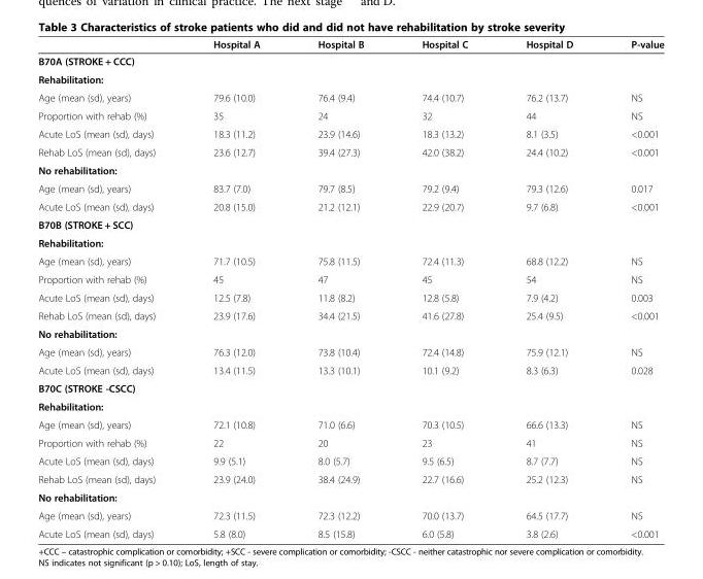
<table><thead><tr><td></td><td>Hospital A</td><td>Hospital B</td><td>Hospital C</td><td>Hospital D</td><td>P-value</td></tr></thead><tbody><tr><td colspan="6">B70A (STROKE + CCC)</td></tr><tr><td colspan="6">Rehabilitation:</td></tr><tr><td>Age (mean (sd), years)</td><td>79.6 (10.0)</td><td>76.4 (9.4)</td><td>74.4 (10.7)</td><td>76.2 (13.7)</td><td>NS</td></tr><tr><td>Proportion with rehab (%)</td><td>35</td><td>24</td><td>32</td><td>44</td><td>NS</td></tr><tr><td>Acute LoS (mean (sd), days)</td><td>18.3 (11.2)</td><td>23.9 (14.6)</td><td>18.3 (13.2)</td><td>8.1 (3.5)</td><td>&lt;0.001</td></tr><tr><td>Rehab LoS (mean (sd), days)</td><td>23.6 (12.7)</td><td>39.4 (27.3)</td><td>42.0 (38.2)</td><td>24.4 (10.2)</td><td>&lt;0.001</td></tr><tr><td colspan="6">No rehabilitation:</td></tr><tr><td>Age (mean (sd), years)</td><td>83.7 (7.0)</td><td>79.7 (8.5)</td><td>79.2 (9.4)</td><td>79.3 (12.6)</td><td>0.017</td></tr><tr><td>Acute LoS (mean (sd), days)</td><td>20.8 (15.0)</td><td>21.2 (12.1)</td><td>22.9 (20.7)</td><td>9.7 (6.8)</td><td>&lt;0.001</td></tr><tr><td colspan="6">B70B (STROKE + SCC)</td></tr><tr><td colspan="6">Rehabilitation:</td></tr><tr><td>Age (mean (sd), years)</td><td>71.7 (10.5)</td><td>75.8 (11.5)</td><td>72.4 (11.3)</td><td>68.8 (12.2)</td><td>NS</td></tr><tr><td>Proportion with rehab (%)</td><td>45</td><td>47</td><td>45</td><td>54</td><td>NS</td></tr><tr><td>Acute LoS (mean (sd), days)</td><td>12.5 (7.8)</td><td>11.8 (8.2)</td><td>12.8 (5.8)</td><td>7.9 (4.2)</td><td>0.003</td></tr><tr><td>Rehab LoS (mean (sd), days)</td><td>23.9 (17.6)</td><td>34.4 (21.5)</td><td>41.6 (27.8)</td><td>25.4 (9.5)</td><td>&lt;0.001</td></tr><tr><td colspan="6">No rehabilitation:</td></tr><tr><td>Age (mean (sd), years)</td><td>76.3 (12.0)</td><td>73.8 (10.4)</td><td>72.4 (14.8)</td><td>75.9 (12.1)</td><td>NS</td></tr><tr><td>Acute LoS (mean (sd), days)</td><td>13.4 (11.5)</td><td>13.3 (10.1)</td><td>10.1 (9.2)</td><td>8.3 (6.3)</td><td>0.028</td></tr><tr><td colspan="6">B70C (STROKE -CSCC)</td></tr><tr><td colspan="6">Rehabilitation:</td></tr><tr><td>Age (mean (sd), years)</td><td>72.1 (10.8)</td><td>71.0 (6.6)</td><td>70.3 (10.5)</td><td>66.6 (13.3)</td><td>NS</td></tr><tr><td>Proportion with rehab (%)</td><td>22</td><td>20</td><td>23</td><td>41</td><td>NS</td></tr><tr><td>Acute LoS (mean (sd), days)</td><td>9.9 (5.1)</td><td>8.0 (5.7)</td><td>9.5 (6.5)</td><td>8.7 (7.7)</td><td>NS</td></tr><tr><td>Rehab LoS (mean (sd), days)</td><td>23.9 (24.0)</td><td>38.4 (24.9)</td><td>22.7 (16.6)</td><td>25.2 (12.3)</td><td>NS</td></tr><tr><td colspan="6">No rehabilitation:</td></tr><tr><td>Age (mean (sd), years)</td><td>72.3 (11.5)</td><td>72.3 (12.2)</td><td>70.0 (13.7)</td><td>64.5 (17.7)</td><td>NS</td></tr><tr><td>Acute LoS (mean (sd), days)</td><td>5.8 (8.0)</td><td>8.5 (15.8)</td><td>6.0 (5.8)</td><td>3.8 (2.6)</td><td>&lt;0.001</td></tr></tbody></table>